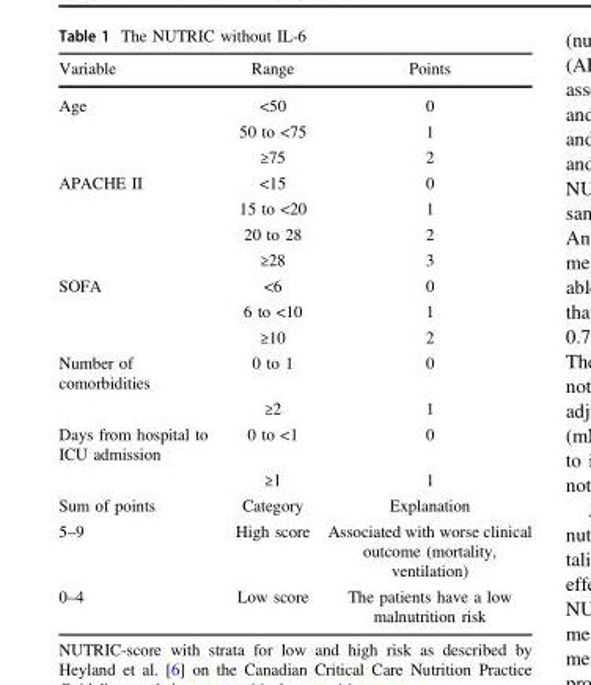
<table><thead><tr><td>Variable</td><td>Range</td><td>Points</td></tr></thead><tbody><tr><td rowspan="3">Age</td><td>&lt;50</td><td>0</td></tr><tr><td>50 to &lt;75</td><td>1</td></tr><tr><td>≥75</td><td>2</td></tr><tr><td rowspan="4">APACHE II</td><td>&lt;15</td><td>0</td></tr><tr><td>15 to &lt;20</td><td>1</td></tr><tr><td>20 to 28</td><td>2</td></tr><tr><td>≥28</td><td>3</td></tr><tr><td rowspan="3">SOFA</td><td>&lt;6</td><td>0</td></tr><tr><td>6 to &lt;10</td><td>1</td></tr><tr><td>≥10</td><td>2</td></tr><tr><td rowspan="2">Number of comorbidities</td><td>0 to 1</td><td>0</td></tr><tr><td>≥2</td><td>1</td></tr><tr><td rowspan="2">Days from hospital to ICU admission</td><td>0 to &lt;1</td><td>0</td></tr><tr><td>≥1</td><td>1</td></tr><tr><td>Sum of points</td><td>Category</td><td>Explanation</td></tr><tr><td>5–9</td><td>High score</td><td>Associated with worse clinical outcome (mortality, ventilation)</td></tr><tr><td>0–4</td><td>Low score</td><td>The patients have a low malnutrition risk</td></tr></tbody></table>